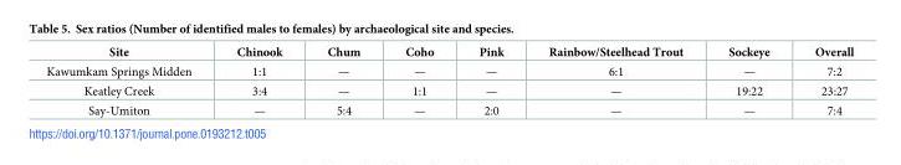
<table><thead><tr><td>Site</td><td>Chinook</td><td>Chum</td><td>Coho</td><td>Pink</td><td>Rainbow/Steelhead Trout</td><td>Sockeye</td><td>Overall</td></tr></thead><tbody><tr><td>Kawumkam Springs Midden</td><td>1:1</td><td>—</td><td>—</td><td>—</td><td>6:1</td><td>—</td><td>7:2</td></tr><tr><td>Keatley Creek</td><td>3:4</td><td>—</td><td>1:1</td><td>—</td><td>—</td><td>19:22</td><td>23:27</td></tr><tr><td>Say-Umiton</td><td>—</td><td>5:4</td><td>—</td><td>2:0</td><td>—</td><td>—</td><td>7:4</td></tr></tbody></table>